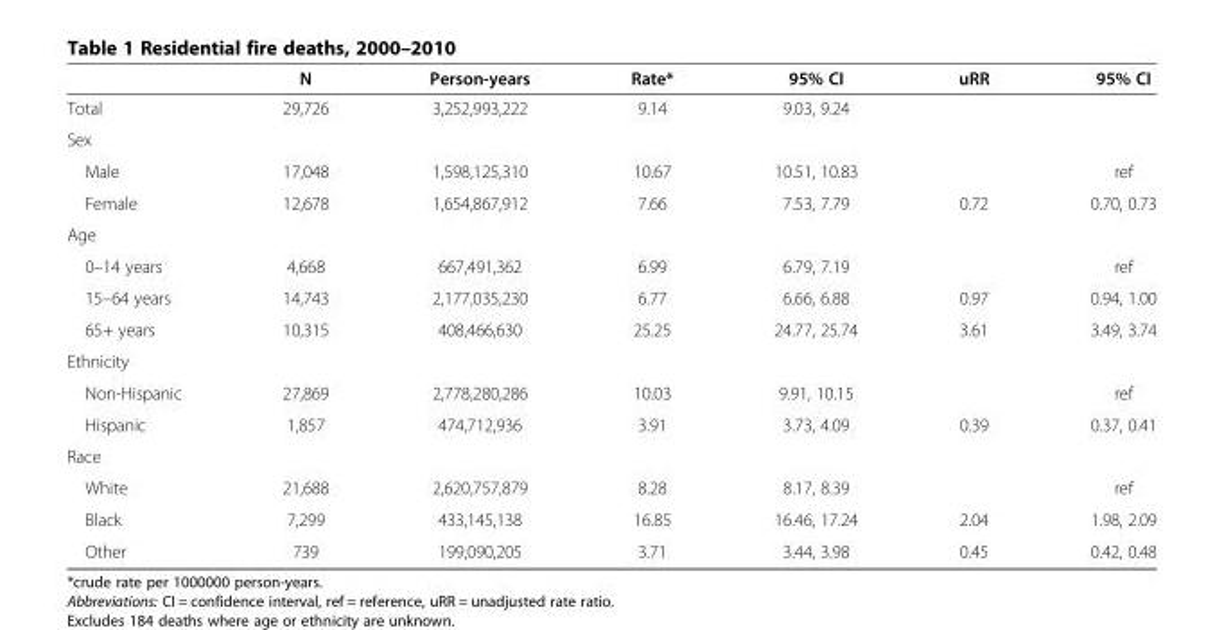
<table><thead><tr><td></td><td>N</td><td>Person-years</td><td>Rate*</td><td>95% CI</td><td>uRR</td><td>95% CI</td></tr></thead><tbody><tr><td>Total</td><td>29,726</td><td>3,252,993,222</td><td>9.14</td><td>9.03, 9.24</td><td></td><td></td></tr><tr><td colspan="7">Sex</td></tr><tr><td>Male</td><td>17,048</td><td>1,598,125,310</td><td>10.67</td><td>10.51, 10.83</td><td></td><td>ref</td></tr><tr><td>Female</td><td>12,678</td><td>1,654,867,912</td><td>7.66</td><td>7.53, 7.79</td><td>0.72</td><td>0.70, 0.73</td></tr><tr><td colspan="7">Age</td></tr><tr><td>0–14 years</td><td>4,668</td><td>667,491,362</td><td>6.99</td><td>6.79, 7.19</td><td></td><td>ref</td></tr><tr><td>15–64 years</td><td>14,743</td><td>2,177,035,230</td><td>6.77</td><td>6.66, 6.88</td><td>0.97</td><td>0.94, 1.00</td></tr><tr><td>65+ years</td><td>10,315</td><td>408,466,630</td><td>25.25</td><td>24.77, 25.74</td><td>3.61</td><td>3.49, 3.74</td></tr><tr><td colspan="7">Ethnicity</td></tr><tr><td>Non-Hispanic</td><td>27,869</td><td>2,778,280,286</td><td>10.03</td><td>9.91, 10.15</td><td></td><td>ref</td></tr><tr><td>Hispanic</td><td>1,857</td><td>474,712,936</td><td>3.91</td><td>3.73, 4.09</td><td>0.39</td><td>0.37, 0.41</td></tr><tr><td colspan="7">Race</td></tr><tr><td>White</td><td>21,688</td><td>2,620,757,879</td><td>8.28</td><td>8.17, 8.39</td><td></td><td>ref</td></tr><tr><td>Black</td><td>7,299</td><td>433,145,138</td><td>16.85</td><td>16.46, 17.24</td><td>2.04</td><td>1.98, 2.09</td></tr><tr><td>Other</td><td>739</td><td>199,090,205</td><td>3.71</td><td>3.44, 3.98</td><td>0.45</td><td>0.42, 0.48</td></tr></tbody></table>